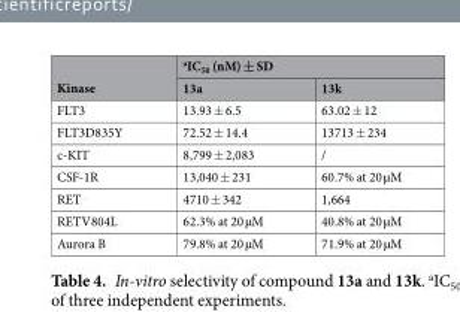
<table><thead><tr><td rowspan="2">Kinase</td><td colspan="2"><sup>a</sup>IC<sub>50</sub> (nM) ± SD</td></tr><tr><td>13a</td><td>13k</td></tr></thead><tbody><tr><td>FLT3</td><td>13.93 ± 6.5</td><td>63.02 ± 12</td></tr><tr><td>FLT3D835Y</td><td>72.52 ± 14.4</td><td>13713 ± 234</td></tr><tr><td>c-KIT</td><td>8,799 ± 2,083</td><td>/</td></tr><tr><td>CSF-1R</td><td>13,040 ± 231</td><td>60.7% at 20 µM</td></tr><tr><td>RET</td><td>4710 ± 342</td><td>1,664</td></tr><tr><td>RETV804L</td><td>62.3% at 20 µM</td><td>40.8% at 20 µM</td></tr><tr><td>Aurora B</td><td>79.8% at 20 µM</td><td>71.9% at 20 µM</td></tr></tbody></table>